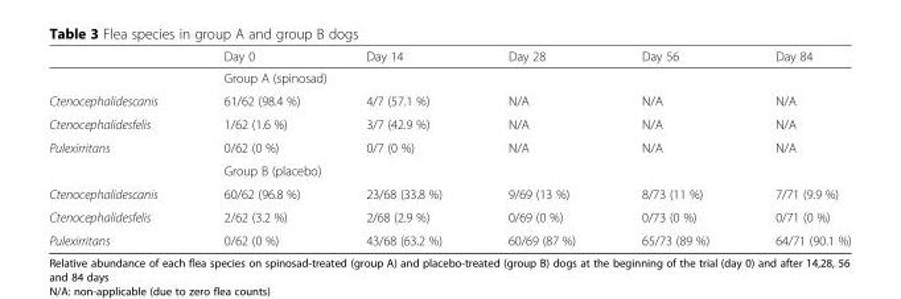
<table><thead><tr><td></td><td>Day 0</td><td>Day 14</td><td>Day 28</td><td>Day 56</td><td>Day 84</td></tr></thead><tbody><tr><td></td><td colspan="5">Group A (spinosad)</td></tr><tr><td>Ctenocephalidescanis</td><td>61/62 (98.4 %)</td><td>4/7 (57.1 %)</td><td>N/A</td><td>N/A</td><td>N/A</td></tr><tr><td>Ctenocephalidesfelis</td><td>1/62 (1.6 %)</td><td>3/7 (42.9 %)</td><td>N/A</td><td>N/A</td><td>N/A</td></tr><tr><td rowspan="2">Pulexirritans</td><td>0/62 (0 %)</td><td>0/7 (0 %)</td><td>N/A</td><td>N/A</td><td>N/A</td></tr><tr><td colspan="5">Group B (placebo)</td></tr><tr><td>Ctenocephalidescanis</td><td>60/62 (96.8 %)</td><td>23/68 (33.8 %)</td><td>9/69 (13 %)</td><td>8/73 (11 %)</td><td>7/71 (9.9 %)</td></tr><tr><td>Ctenocephalidesfelis</td><td>2/62 (3.2 %)</td><td>2/68 (2.9 %)</td><td>0/69 (0 %)</td><td>0/73 (0 %)</td><td>0/71 (0 %)</td></tr><tr><td>Pulexirritans</td><td>0/62 (0 %)</td><td>43/68 (63.2 %)</td><td>60/69 (87 %)</td><td>65/73 (89 %)</td><td>64/71 (90.1 %)</td></tr></tbody></table>